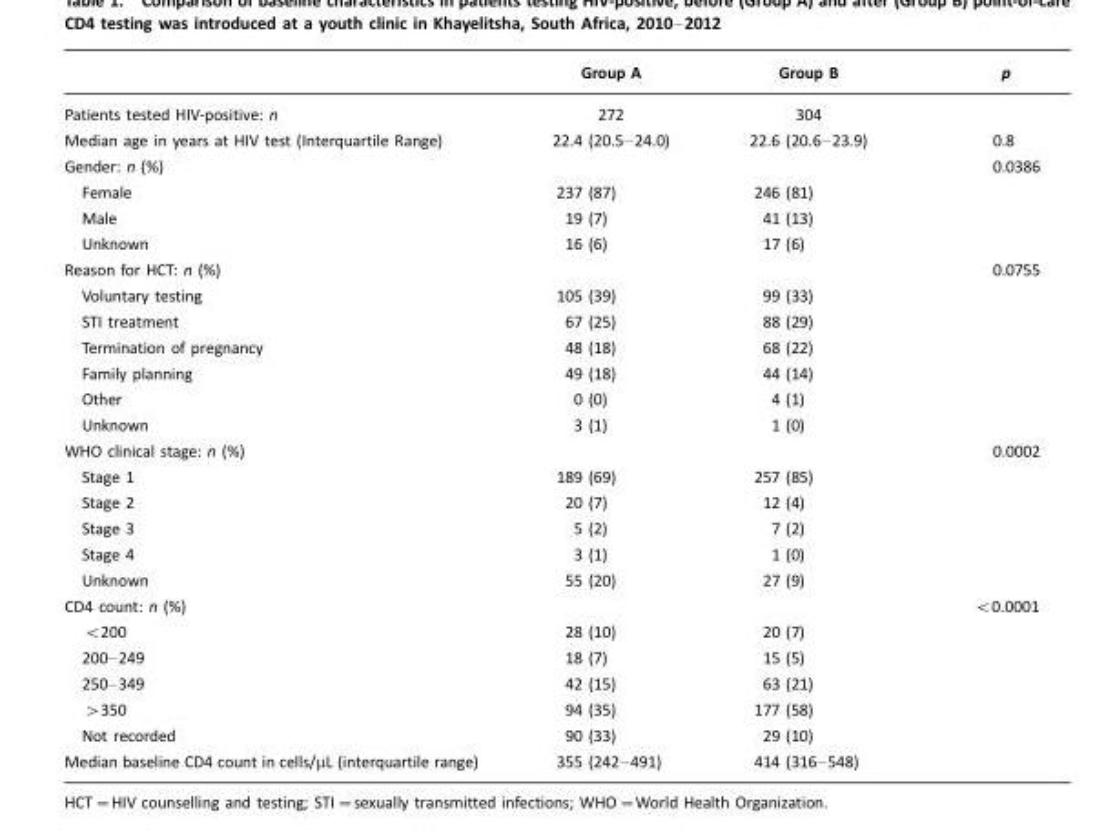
<table><thead><tr><td></td><td>Group A</td><td>Group B</td><td>p</td></tr></thead><tbody><tr><td>Patients tested HIV-positive: n</td><td>272</td><td>304</td><td></td></tr><tr><td>Median age in years at HIV test (Interquartile Range)</td><td>22.4 (20.5–24.0)</td><td>22.6 (20.6–23.9)</td><td>0.8</td></tr><tr><td>Gender: n (%)</td><td></td><td></td><td>0.0386</td></tr><tr><td>Female</td><td>237 (87)</td><td>246 (81)</td><td></td></tr><tr><td>Male</td><td>19 (7)</td><td>41 (13)</td><td></td></tr><tr><td>Unknown</td><td>16 (6)</td><td>17 (6)</td><td></td></tr><tr><td>Reason for HCT: n (%)</td><td></td><td></td><td>0.0755</td></tr><tr><td>Voluntary testing</td><td>105 (39)</td><td>99 (33)</td><td></td></tr><tr><td>STI treatment</td><td>67 (25)</td><td>88 (29)</td><td></td></tr><tr><td>Termination of pregnancy</td><td>48 (18)</td><td>68 (22)</td><td></td></tr><tr><td>Family planning</td><td>49 (18)</td><td>44 (14)</td><td></td></tr><tr><td>Other</td><td>0 (0)</td><td>4 (1)</td><td></td></tr><tr><td>Unknown</td><td>3 (1)</td><td>1 (0)</td><td></td></tr><tr><td>WHO clinical stage: n (%)</td><td></td><td></td><td>0.0002</td></tr><tr><td>Stage 1</td><td>189 (69)</td><td>257 (85)</td><td></td></tr><tr><td>Stage 2</td><td>20 (7)</td><td>12 (4)</td><td></td></tr><tr><td>Stage 3</td><td>5 (2)</td><td>7 (2)</td><td></td></tr><tr><td>Stage 4</td><td>3 (1)</td><td>1 (0)</td><td></td></tr><tr><td>Unknown</td><td>55 (20)</td><td>27 (9)</td><td></td></tr><tr><td>CD4 count: n (%)</td><td></td><td></td><td>&lt;0.0001</td></tr><tr><td>&lt;200</td><td>28 (10)</td><td>20 (7)</td><td></td></tr><tr><td>200–249</td><td>18 (7)</td><td>15 (5)</td><td></td></tr><tr><td>250–349</td><td>42 (15)</td><td>63 (21)</td><td></td></tr><tr><td>&gt;350</td><td>94 (35)</td><td>177 (58)</td><td></td></tr><tr><td>Not recorded</td><td>90 (33)</td><td>29 (10)</td><td></td></tr><tr><td>Median baseline CD4 count in cells/µL (interquartile range)</td><td>355 (242–491)</td><td>414 (316–548)</td><td></td></tr></tbody></table>